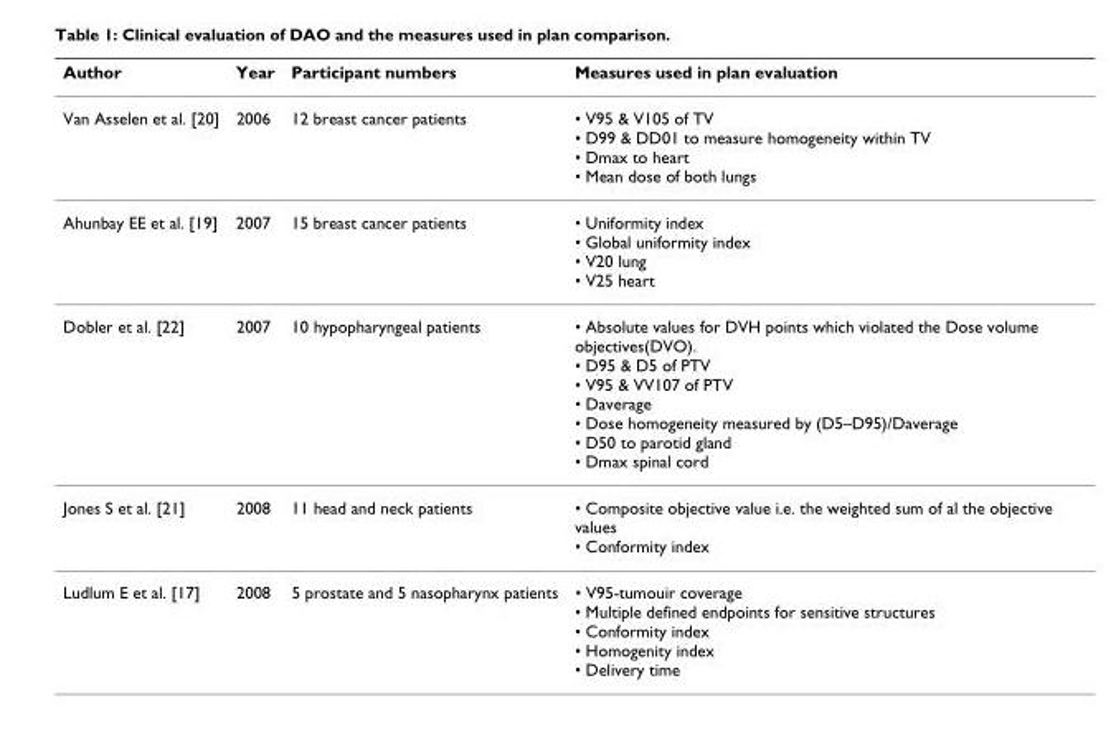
<table><thead><tr><td>Author</td><td>Year</td><td>Participant numbers</td><td>Measures used in plan evaluation</td></tr></thead><tbody><tr><td>Van Asselen et al. [20]</td><td>2006</td><td>12 breast cancer patients</td><td>• V95 &amp; V105 of TV • D99 &amp; DD01 to measure homogeneity within TV • Dmax to heart • Mean dose of both lungs</td></tr><tr><td>Ahunbay EE et al. [19]</td><td>2007</td><td>15 breast cancer patients</td><td>• Uniformity index • Global uniformity index • V20 lung • V25 heart</td></tr><tr><td>Dobler et al. [22]</td><td>2007</td><td>10 hypopharyngeal patients</td><td>• Absolute values for DVH points which violated the Dose volume objectives(DVO). • D95 &amp; D5 of PTV • V95 &amp; VV107 of PTV • Daverage • Dose homogeneity measured by (D5–D95)/Daverage • D50 to parotid gland • Dmax spinal cord</td></tr><tr><td>Jones S et al. [21]</td><td>2008</td><td>11 head and neck patients</td><td>• Composite objective value i.e. the weighted sum of al the objective values • Conformity index</td></tr><tr><td>Ludlum E et al. [17]</td><td>2008</td><td>5 prostate and 5 nasopharynx patients</td><td>• V95-tumouir coverage • Multiple defined endpoints for sensitive structures • Conformity index • Homogenity index • Delivery time</td></tr></tbody></table>